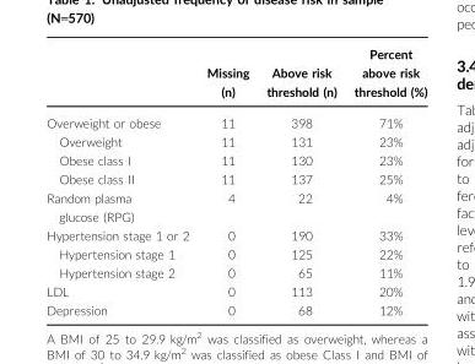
<table><thead><tr><td></td><td>Missing (n)</td><td>Above risk threshold (n)</td><td>Percent above risk threshold (%)</td></tr></thead><tbody><tr><td>Overweight or obese</td><td>11</td><td>398</td><td>71%</td></tr><tr><td>Overweight</td><td>11</td><td>131</td><td>23%</td></tr><tr><td>Obese class I</td><td>11</td><td>130</td><td>23%</td></tr><tr><td>Obese class II</td><td>11</td><td>137</td><td>25%</td></tr><tr><td>Random plasma glucose (RPG)</td><td>4</td><td>22</td><td>4%</td></tr><tr><td>Hypertension stage 1 or 2</td><td>0</td><td>190</td><td>33%</td></tr><tr><td>Hypertension stage 1</td><td>0</td><td>125</td><td>22%</td></tr><tr><td>Hypertension stage 2</td><td>0</td><td>65</td><td>11%</td></tr><tr><td>LDL</td><td>0</td><td>113</td><td>20%</td></tr><tr><td>Depression</td><td>0</td><td>68</td><td>12%</td></tr></tbody></table>